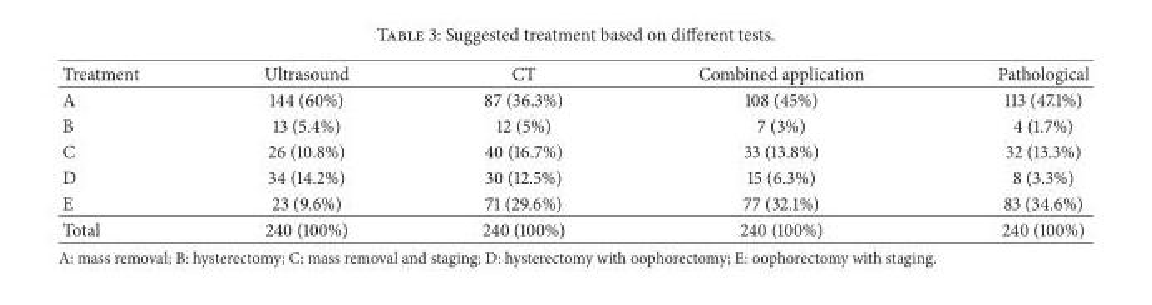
<table><thead><tr><td>Treatment</td><td>Ultrasound</td><td>CT</td><td>Combined application</td><td>Pathological</td></tr></thead><tbody><tr><td>A</td><td>144 (60%)</td><td>87 (36.3%)</td><td>108 (45%)</td><td>113 (47.1%)</td></tr><tr><td>B</td><td>13 (5.4%)</td><td>12 (5%)</td><td>7 (3%)</td><td>4 (1.7%)</td></tr><tr><td>C</td><td>26 (10.8%)</td><td>40 (16.7%)</td><td>33 (13.8%)</td><td>32 (13.3%)</td></tr><tr><td>D</td><td>34 (14.2%)</td><td>30 (12.5%)</td><td>15 (6.3%)</td><td>8 (3.3%)</td></tr><tr><td>E</td><td>23 (9.6%)</td><td>71 (29.6%)</td><td>77 (32.1%)</td><td>83 (34.6%)</td></tr><tr><td>Total</td><td>240 (100%)</td><td>240 (100%)</td><td>240 (100%)</td><td>240 (100%)</td></tr></tbody></table>